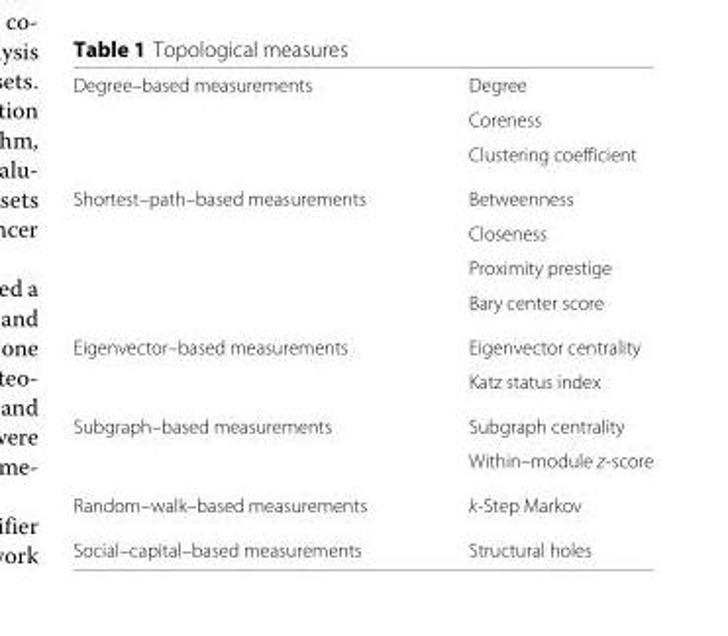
<table><tbody><tr><td rowspan="3">Degree–based measurements</td><td>Degree</td></tr><tr><td>Coreness</td></tr><tr><td>Clustering coefficient</td></tr><tr><td rowspan="4">Shortest–path–based measurements</td><td>Betweenness</td></tr><tr><td>Closeness</td></tr><tr><td>Proximity prestige</td></tr><tr><td>Bary center score</td></tr><tr><td rowspan="2">Eigenvector–based measurements</td><td>Eigenvector centrality</td></tr><tr><td>Katz status index</td></tr><tr><td rowspan="2">Subgraph–based measurements</td><td>Subgraph centrality</td></tr><tr><td>Within–module z-score</td></tr><tr><td>Random–walk–based measurements</td><td>k-Step Markov</td></tr><tr><td>Social–capital–based measurements</td><td>Structural holes</td></tr></tbody></table>